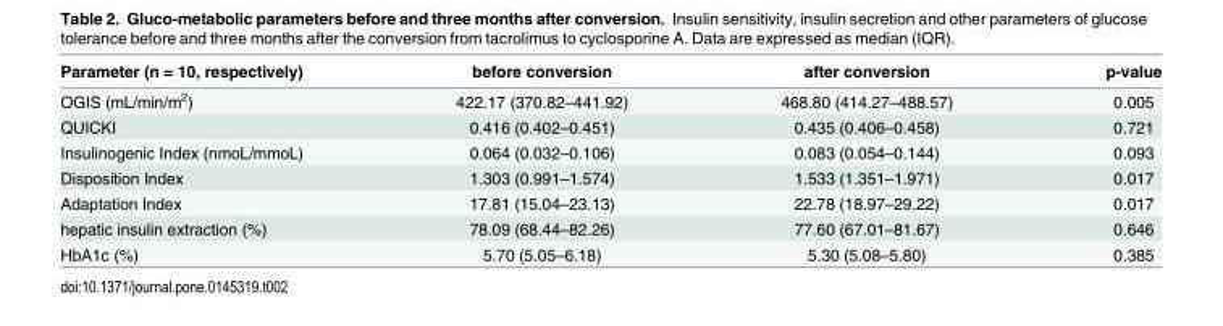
<table><thead><tr><td>Parameter (n = 10, respectively)</td><td>before conversion</td><td>after conversion</td><td>p-value</td></tr></thead><tbody><tr><td>OGIS (mL/min/m<sup>2</sup>)</td><td>422.17 (370.82–441.92)</td><td>468.80 (414.27–488.57)</td><td>0.005</td></tr><tr><td>QUICKI</td><td>0.416 (0.402–0.451)</td><td>0.435 (0.406–0.458)</td><td>0.721</td></tr><tr><td>Insulinogenic Index (nmoL/mmoL)</td><td>0.064 (0.032–0.106)</td><td>0.083 (0.054–0.144)</td><td>0.093</td></tr><tr><td>Disposition Index</td><td>1.303 (0.991–1.574)</td><td>1.533 (1.351–1.971)</td><td>0.017</td></tr><tr><td>Adaptation Index</td><td>17.81 (15.04–23.13)</td><td>22.78 (18.97–29.22)</td><td>0.017</td></tr><tr><td>hepatic insulin extraction (%)</td><td>78.09 (68.44–82.26)</td><td>77.60 (67.01–81.67)</td><td>0.646</td></tr><tr><td>HbA1c (%)</td><td>5.70 (5.05–6.18)</td><td>5.30 (5.08–5.80)</td><td>0.385</td></tr></tbody></table>